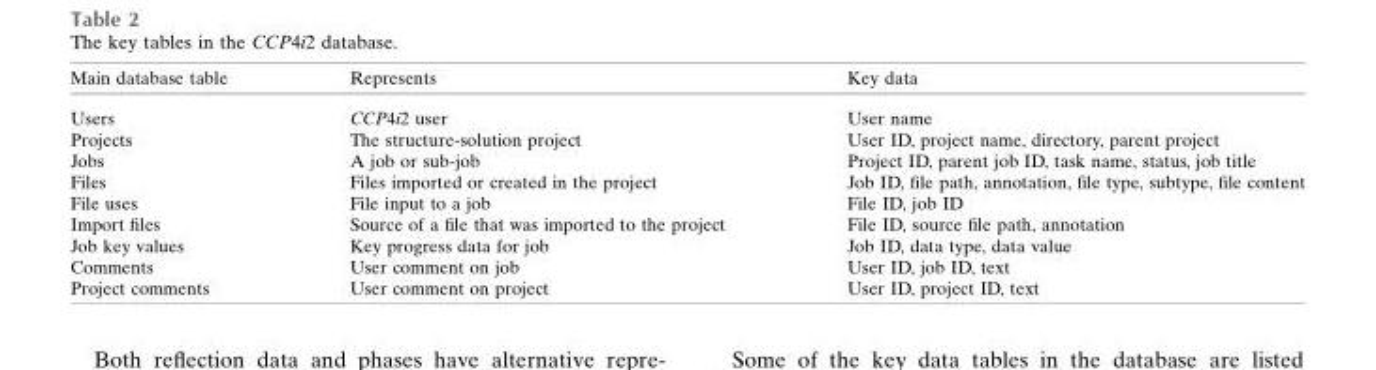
<table><thead><tr><td>Main database table</td><td>Represents</td><td>Key data</td></tr></thead><tbody><tr><td>Users</td><td>CCP4i2 user</td><td>User name</td></tr><tr><td>Projects</td><td>The structure-solution project</td><td>User ID, project name, directory, parent project</td></tr><tr><td>Jobs</td><td>A job or sub-job</td><td>Project ID, parent job ID, task name, status, job title</td></tr><tr><td>Files</td><td>Files imported or created in the project</td><td>Job ID, file path, annotation, file type, subtype, file content</td></tr><tr><td>File uses</td><td>File input to a job</td><td>File ID, job ID</td></tr><tr><td>Import files</td><td>Source of a file that was imported to the project</td><td>File ID, source file path, annotation</td></tr><tr><td>Job key values</td><td>Key progress data for job</td><td>Job ID, data type, data value</td></tr><tr><td>Comments</td><td>User comment on job</td><td>User ID, job ID, text</td></tr><tr><td>Project comments</td><td>User comment on project</td><td>User ID, project ID, text</td></tr></tbody></table>